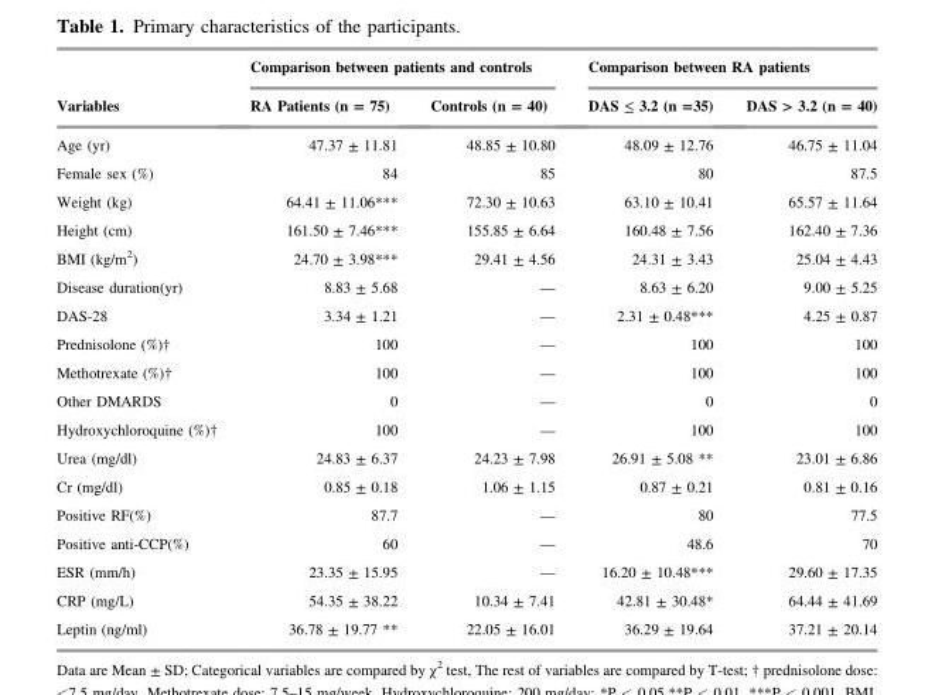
<table><thead><tr><td rowspan="2">Variables</td><td colspan="2">Comparison between patients and controls</td><td colspan="2">Comparison between RA patients</td></tr><tr><td>RA Patients (n = 75)</td><td>Controls (n = 40)</td><td>DAS ≤ 3.2 (n =35)</td><td>DAS &gt; 3.2 (n = 40)</td></tr></thead><tbody><tr><td>Age (yr)</td><td>47.37 ± 11.81</td><td>48.85 ± 10.80</td><td>48.09 ± 12.76</td><td>46.75 ± 11.04</td></tr><tr><td>Female sex (%)</td><td>84</td><td>85</td><td>80</td><td>87.5</td></tr><tr><td>Weight (kg)</td><td>64.41 ± 11.06***</td><td>72.30 ± 10.63</td><td>63.10 ± 10.41</td><td>65.57 ± 11.64</td></tr><tr><td>Height (cm)</td><td>161.50 ± 7.46***</td><td>155.85 ± 6.64</td><td>160.48 ± 7.56</td><td>162.40 ± 7.36</td></tr><tr><td>BMI (kg/m<sup>2</sup>)</td><td>24.70 ± 3.98***</td><td>29.41 ± 4.56</td><td>24.31 ± 3.43</td><td>25.04 ± 4.43</td></tr><tr><td>Disease duration(yr)</td><td>8.83 ± 5.68</td><td>––</td><td>8.63 ± 6.20</td><td>9.00 ± 5.25</td></tr><tr><td>DAS-28</td><td>3.34 ± 1.21</td><td>––</td><td>2.31 ± 0.48***</td><td>4.25 ± 0.87</td></tr><tr><td>Prednisolone (%)†</td><td>100</td><td>––</td><td>100</td><td>100</td></tr><tr><td>Methotrexate (%)†</td><td>100</td><td>––</td><td>100</td><td>100</td></tr><tr><td>Other DMARDS</td><td>0</td><td>––</td><td>0</td><td>0</td></tr><tr><td>Hydroxychloroquine (%)†</td><td>100</td><td>––</td><td>100</td><td>100</td></tr><tr><td>Urea (mg/dl)</td><td>24.83 ± 6.37</td><td>24.23 ± 7.98</td><td>26.91 ± 5.08 **</td><td>23.01 ± 6.86</td></tr><tr><td>Cr (mg/dl)</td><td>0.85 ± 0.18</td><td>1.06 ± 1.15</td><td>0.87 ± 0.21</td><td>0.81 ± 0.16</td></tr><tr><td>Positive RF(%)</td><td>87.7</td><td>––</td><td>80</td><td>77.5</td></tr><tr><td>Positive anti-CCP(%)</td><td>60</td><td>––</td><td>48.6</td><td>70</td></tr><tr><td>ESR (mm/h)</td><td>23.35 ± 15.95</td><td>––</td><td>16.20 ± 10.48***</td><td>29.60 ± 17.35</td></tr><tr><td>CRP (mg/L)</td><td>54.35 ± 38.22</td><td>10.34 ± 7.41</td><td>42.81 ± 30.48*</td><td>64.44 ± 41.69</td></tr><tr><td>Leptin (ng/ml)</td><td>36.78 ± 19.77 **</td><td>22.05 ± 16.01</td><td>36.29 ± 19.64</td><td>37.21 ± 20.14</td></tr></tbody></table>